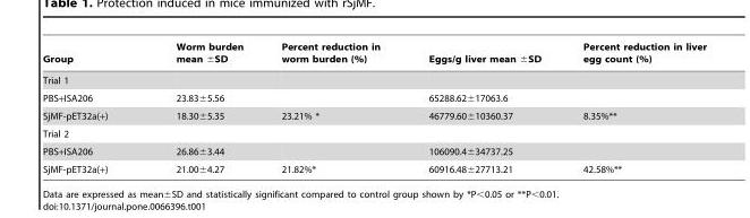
<table><thead><tr><td>Group</td><td>Worm burden mean ±SD</td><td>Percent reduction in worm burden (%)</td><td>Eggs/g liver mean ±SD</td><td>Percent reduction in liver egg count (%)</td></tr></thead><tbody><tr><td colspan="5">Trial 1</td></tr><tr><td>PBS+ISA206</td><td>23.83±5.56</td><td></td><td>65288.62±17063.6</td><td></td></tr><tr><td>SjMF-pET32a(+)</td><td>18.30±5.35</td><td>23.21% *</td><td>46779.60±10360.37</td><td>8.35%**</td></tr><tr><td colspan="5">Trial 2</td></tr><tr><td>PBS+ISA206</td><td>26.86±3.44</td><td></td><td>106090.4±34737.25</td><td></td></tr><tr><td>SjMF-pET32a(+)</td><td>21.00±4.27</td><td>21.82%*</td><td>60916.48±27713.21</td><td>42.58%**</td></tr></tbody></table>